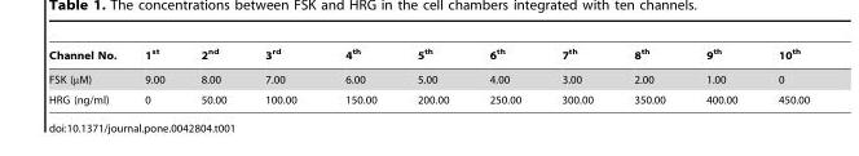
<table><thead><tr><td>Channel No.</td><td>1<sup>st</sup></td><td>2<sup>nd</sup></td><td>3<sup>rd</sup></td><td>4<sup>th</sup></td><td>5<sup>th</sup></td><td>6<sup>th</sup></td><td>7<sup>th</sup></td><td>8<sup>th</sup></td><td>9<sup>th</sup></td><td>10<sup>th</sup></td></tr></thead><tbody><tr><td>FSK (µM)</td><td>9.00</td><td>8.00</td><td>7.00</td><td>6.00</td><td>5.00</td><td>4.00</td><td>3.00</td><td>2.00</td><td>1.00</td><td>0</td></tr><tr><td>HRG (ng/ml)</td><td>0</td><td>50.00</td><td>100.00</td><td>150.00</td><td>200.00</td><td>250.00</td><td>300.00</td><td>350.00</td><td>400.00</td><td>450.00</td></tr></tbody></table>